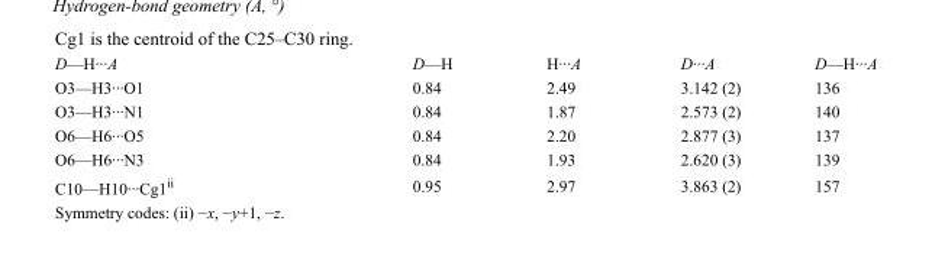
<table><tbody><tr><td>D—H···A</td><td>D—H</td><td>H···A</td><td>D···A</td><td>D—H···A</td></tr><tr><td>O3—H3···O1</td><td>0.84</td><td>2.49</td><td>3.142 (2)</td><td>136</td></tr><tr><td>O3—H3···N1</td><td>0.84</td><td>1.87</td><td>2.573 (2)</td><td>140</td></tr><tr><td>O6—H6···O5</td><td>0.84</td><td>2.20</td><td>2.877 (3)</td><td>137</td></tr><tr><td>O6—H6···N3</td><td>0.84</td><td>1.93</td><td>2.620 (3)</td><td>139</td></tr><tr><td>C10—H10···Cg1<sup>ii</sup></td><td>0.95</td><td>2.97</td><td>3.863 (2)</td><td>157</td></tr></tbody></table>